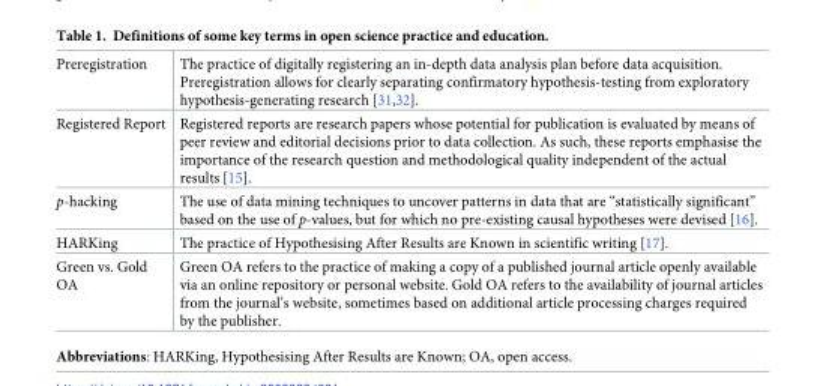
<table><tbody><tr><td>Preregistration</td><td>The practice of digitally registering an in-depth data analysis plan before data acquisition. Preregistration allows for clearly separating confirmatory hypothesis-testing from exploratory hypothesis-generating research [31,32].</td></tr><tr><td>Registered Report</td><td>Registered reports are research papers whose potential for publication is evaluated by means of peer review and editorial decisions prior to data collection. As such, these reports emphasise the importance of the research question and methodological quality independent of the actual results [15].</td></tr><tr><td>p-hacking</td><td>The use of data mining techniques to uncover patterns in data that are “statistically significant” based on the use of p-values, but for which no pre-existing causal hypotheses were devised [16].</td></tr><tr><td>HARKing</td><td>The practice of Hypothesising After Results are Known in scientific writing [17].</td></tr><tr><td>Green vs. Gold OA</td><td>Green OA refers to the practice of making a copy of a published journal article openly available via an online repository or personal website. Gold OA refers to the availability of journal articles from the journal’s website, sometimes based on additional article processing charges required by the publisher.</td></tr></tbody></table>